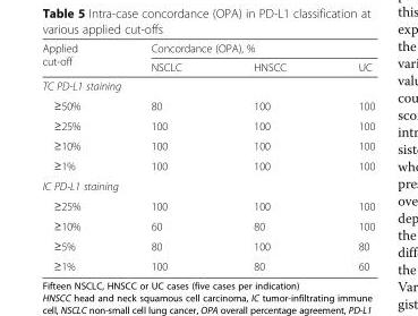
<table><thead><tr><td rowspan="2">Applied cut-off</td><td colspan="3">Concordance (OPA), %</td></tr><tr><td>NSCLC</td><td>HNSCC</td><td>UC</td></tr></thead><tbody><tr><td colspan="4">TC PD-L1 staining</td></tr><tr><td>≥50%</td><td>80</td><td>100</td><td>100</td></tr><tr><td>≥25%</td><td>100</td><td>100</td><td>100</td></tr><tr><td>≥10%</td><td>100</td><td>100</td><td>100</td></tr><tr><td>≥1%</td><td>100</td><td>100</td><td>100</td></tr><tr><td colspan="4">IC PD-L1 staining</td></tr><tr><td>≥25%</td><td>100</td><td>100</td><td>100</td></tr><tr><td>≥10%</td><td>60</td><td>80</td><td>100</td></tr><tr><td>≥5%</td><td>80</td><td>100</td><td>80</td></tr><tr><td>≥1%</td><td>100</td><td>80</td><td>60</td></tr></tbody></table>